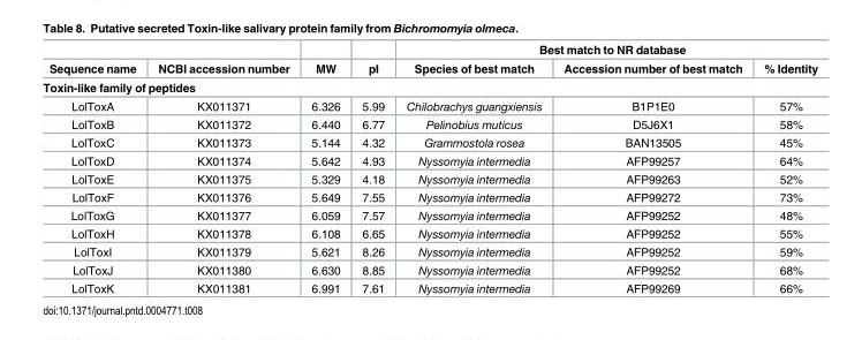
<table><thead><tr><td rowspan="2">Sequence name</td><td rowspan="2">NCBI accession number</td><td rowspan="2">MW</td><td rowspan="2">pI</td><td colspan="3">Best match to NR database</td></tr><tr><td>Species of best match</td><td>Accession number of best match</td><td>% Identity</td></tr><tr><td colspan="7">Toxin-like family of peptides</td></tr></thead><tbody><tr><td>LolToxA</td><td>KX011371</td><td>6.326</td><td>5.99</td><td>Chilobrachys guangxiensis</td><td>B1P1E0</td><td>57%</td></tr><tr><td>LolToxB</td><td>KX011372</td><td>6.440</td><td>6.77</td><td>Pelinobius muticus</td><td>D5J6X1</td><td>58%</td></tr><tr><td>LolToxC</td><td>KX011373</td><td>5.144</td><td>4.32</td><td>Grammostola rosea</td><td>BAN13505</td><td>45%</td></tr><tr><td>LolToxD</td><td>KX011374</td><td>5.642</td><td>4.93</td><td>Nyssomyia intermedia</td><td>AFP99257</td><td>64%</td></tr><tr><td>LolToxE</td><td>KX011375</td><td>5.329</td><td>4.18</td><td>Nyssomyia intermedia</td><td>AFP99263</td><td>52%</td></tr><tr><td>LolToxF</td><td>KX011376</td><td>5.649</td><td>7.55</td><td>Nyssomyia intermedia</td><td>AFP99272</td><td>73%</td></tr><tr><td>LolToxG</td><td>KX011377</td><td>6.059</td><td>7.57</td><td>Nyssomyia intermedia</td><td>AFP99252</td><td>48%</td></tr><tr><td>LolToxH</td><td>KX011378</td><td>6.108</td><td>6.65</td><td>Nyssomyia intermedia</td><td>AFP99252</td><td>55%</td></tr><tr><td>LolToxI</td><td>KX011379</td><td>5.621</td><td>8.26</td><td>Nyssomyia intermedia</td><td>AFP99252</td><td>59%</td></tr><tr><td>LolToxJ</td><td>KX011380</td><td>6.630</td><td>8.85</td><td>Nyssomyia intermedia</td><td>AFP99252</td><td>68%</td></tr><tr><td>LolToxK</td><td>KX011381</td><td>6.991</td><td>7.61</td><td>Nyssomyia intermedia</td><td>AFP99269</td><td>66%</td></tr></tbody></table>